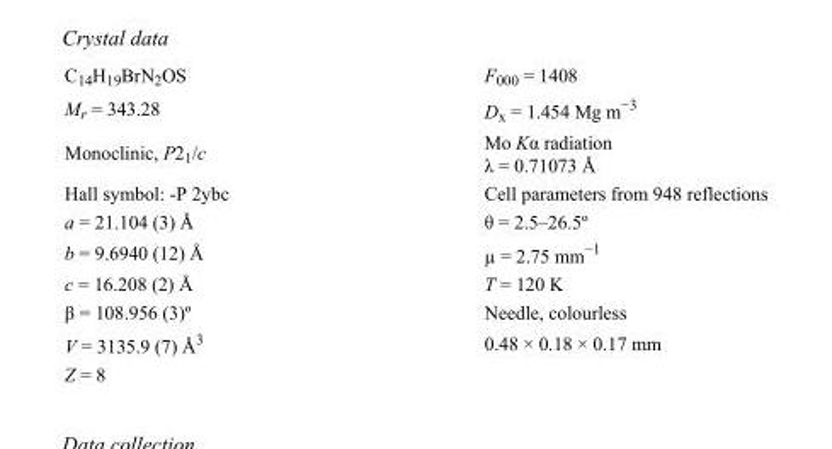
<table><tbody><tr><td>C<sub>14</sub>H<sub>19</sub>BrN<sub>2</sub>OS</td><td>F000 = 1408</td></tr><tr><td>M<sub>r</sub> = 343.28</td><td>D<sub>x</sub> = 1.454 Mg m<sup>−3</sup></td></tr><tr><td>Monoclinic, P2<sub>1</sub>/c</td><td>Mo Kα radiation λ = 0.71073 Å</td></tr><tr><td>Hall symbol: -P 2ybc</td><td>Cell parameters from 948 reflections</td></tr><tr><td>a = 21.104 (3) Å</td><td>θ = 2.5–26.5º</td></tr><tr><td>b = 9.6940 (12) Å</td><td>µ = 2.75 mm<sup>−1</sup></td></tr><tr><td>c = 16.208 (2) Å</td><td>T = 120 K</td></tr><tr><td>β = 108.956 (3)º</td><td>Needle, colourless</td></tr><tr><td>V = 3135.9 (7) Å<sup>3</sup></td><td>0.48 × 0.18 × 0.17 mm</td></tr><tr><td>Z = 8</td><td></td></tr></tbody></table>